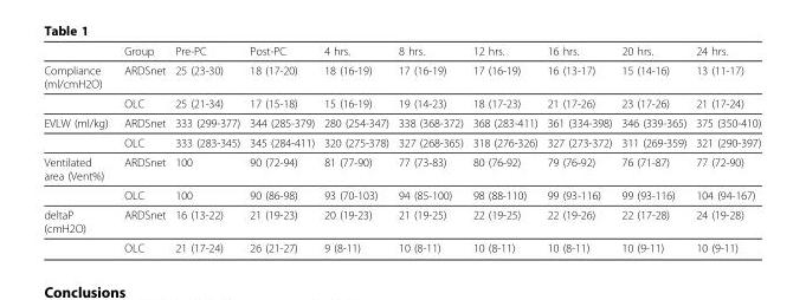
<table><thead><tr><td></td><td>Group</td><td>Pre-PC</td><td>Post-PC</td><td>4 hrs.</td><td>8 hrs.</td><td>12 hrs.</td><td>16 hrs.</td><td>20 hrs.</td><td>24 hrs.</td></tr></thead><tbody><tr><td rowspan="2">Compliance (ml/cmH2O)</td><td>ARDSnet</td><td>25 (23-30)</td><td>18 (17-20)</td><td>18 (16-19)</td><td>17 (16-19)</td><td>17 (16-19)</td><td>16 (13-17)</td><td>15 (14-16)</td><td>13 (11-17)</td></tr><tr><td>OLC</td><td>25 (21-34)</td><td>17 (15-18)</td><td>15 (16-19)</td><td>19 (14-23)</td><td>18 (17-23)</td><td>21 (17-26)</td><td>23 (17-26)</td><td>21 (17-24)</td></tr><tr><td rowspan="2">EVLW (ml/kg)</td><td>ARDSnet</td><td>333 (299-377)</td><td>344 (285-379)</td><td>280 (254-347)</td><td>338 (368-372)</td><td>368 (283-411)</td><td>361 (334-398)</td><td>346 (339-365)</td><td>375 (350-410)</td></tr><tr><td>OLC</td><td>333 (283-345)</td><td>345 (284-411)</td><td>320 (275-378)</td><td>327 (268-365)</td><td>318 (276-326)</td><td>327 (273-372)</td><td>311 (269-359)</td><td>321 (290-397)</td></tr><tr><td rowspan="2">Ventilated area (Vent%)</td><td>ARDSnet</td><td>100</td><td>90 (72-94)</td><td>81 (77-90)</td><td>77 (73-83)</td><td>80 (76-92)</td><td>79 (76-92)</td><td>76 (71-87)</td><td>77 (72-90)</td></tr><tr><td>OLC</td><td>100</td><td>90 (86-98)</td><td>93 (70-103)</td><td>94 (85-100)</td><td>98 (88-110)</td><td>99 (93-116)</td><td>99 (93-116)</td><td>104 (94-167)</td></tr><tr><td rowspan="2">deltaP (cmH2O)</td><td>ARDSnet</td><td>16 (13-22)</td><td>21 (19-23)</td><td>20 (19-23)</td><td>21 (19-25)</td><td>22 (19-25)</td><td>22 (19-26)</td><td>22 (17-28)</td><td>24 (19-28)</td></tr><tr><td>OLC</td><td>21 (17-24)</td><td>26 (21-27)</td><td>9 (8-11)</td><td>10 (8-11)</td><td>10 (8-11)</td><td>10 (8-11)</td><td>10 (9-11)</td><td>10 (9-11)</td></tr></tbody></table>